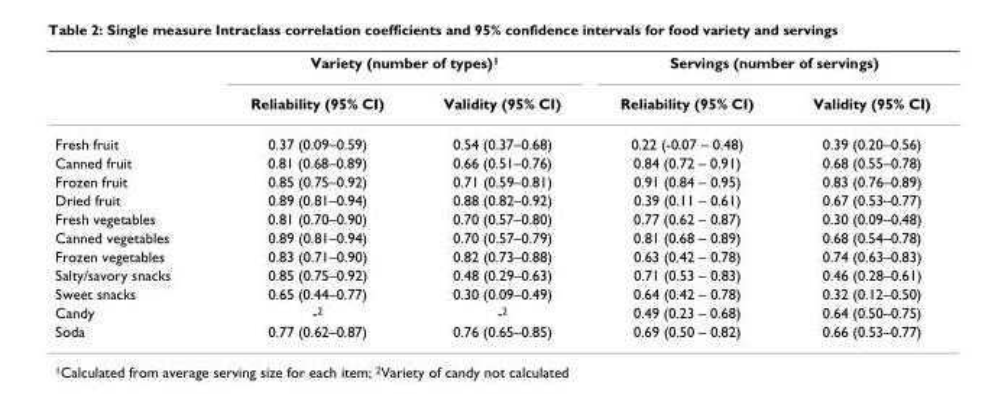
<table><thead><tr><td rowspan="2"></td><td colspan="2">Variety (number of types)<sup>1</sup></td><td colspan="2">Servings (number of servings)</td></tr><tr><td>Reliability (95% CI)</td><td>Validity (95% CI)</td><td>Reliability (95% CI)</td><td>Validity (95% CI)</td></tr></thead><tbody><tr><td>Fresh fruit</td><td>0.37 (0.09–0.59)</td><td>0.54 (0.37–0.68)</td><td>0.22 (-0.07 – 0.48)</td><td>0.39 (0.20–0.56)</td></tr><tr><td>Canned fruit</td><td>0.81 (0.68–0.89)</td><td>0.66 (0.51–0.76)</td><td>0.84 (0.72 – 0.91)</td><td>0.68 (0.55–0.78)</td></tr><tr><td>Frozen fruit</td><td>0.85 (0.75–0.92)</td><td>0.71 (0.59–0.81)</td><td>0.91 (0.84 – 0.95)</td><td>0.83 (0.76–0.89)</td></tr><tr><td>Dried fruit</td><td>0.89 (0.81–0.94)</td><td>0.88 (0.82–0.92)</td><td>0.39 (0.11 – 0.61)</td><td>0.67 (0.53–0.77)</td></tr><tr><td>Fresh vegetables</td><td>0.81 (0.70–0.90)</td><td>0.70 (0.57–0.80)</td><td>0.77 (0.62 – 0.87)</td><td>0.30 (0.09–0.48)</td></tr><tr><td>Canned vegetables</td><td>0.89 (0.81–0.94)</td><td>0.70 (0.57–0.79)</td><td>0.81 (0.68 – 0.89)</td><td>0.68 (0.54–0.78)</td></tr><tr><td>Frozen vegetables</td><td>0.83 (0.71–0.90)</td><td>0.82 (0.73–0.88)</td><td>0.63 (0.42 – 0.78)</td><td>0.74 (0.63–0.83)</td></tr><tr><td>Salty/savory snacks</td><td>0.85 (0.75–0.92)</td><td>0.48 (0.29–0.63)</td><td>0.71 (0.53 – 0.83)</td><td>0.46 (0.28–0.61)</td></tr><tr><td>Sweet snacks</td><td>0.65 (0.44–0.77)</td><td>0.30 (0.09–0.49)</td><td>0.64 (0.42 – 0.78)</td><td>0.32 (0.12–0.50)</td></tr><tr><td>Candy</td><td>-<sup>2</sup></td><td>-<sup>2</sup></td><td>0.49 (0.23 – 0.68)</td><td>0.64 (0.50–0.75)</td></tr><tr><td>Soda</td><td>0.77 (0.62–0.87)</td><td>0.76 (0.65–0.85)</td><td>0.69 (0.50 – 0.82)</td><td>0.66 (0.53–0.77)</td></tr></tbody></table>